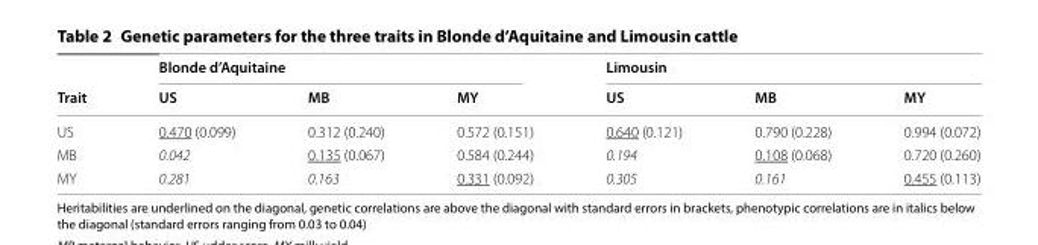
<table><thead><tr><td rowspan="2">Trait</td><td colspan="3">Blonde d’Aquitaine</td><td colspan="3">Limousin</td></tr><tr><td>US</td><td>MB</td><td>MY</td><td>US</td><td>MB</td><td>MY</td></tr></thead><tbody><tr><td>US</td><td>0.470 (0.099)</td><td>0.312 (0.240)</td><td>0.572 (0.151)</td><td>0.640 (0.121)</td><td>0.790 (0.228)</td><td>0.994 (0.072)</td></tr><tr><td>MB</td><td>0.042</td><td>0.135 (0.067)</td><td>0.584 (0.244)</td><td>0.194</td><td>0.108 (0.068)</td><td>0.720 (0.260)</td></tr><tr><td>MY</td><td>0.281</td><td>0.163</td><td>0.331 (0.092)</td><td>0.305</td><td>0.161</td><td>0.455 (0.113)</td></tr></tbody></table>